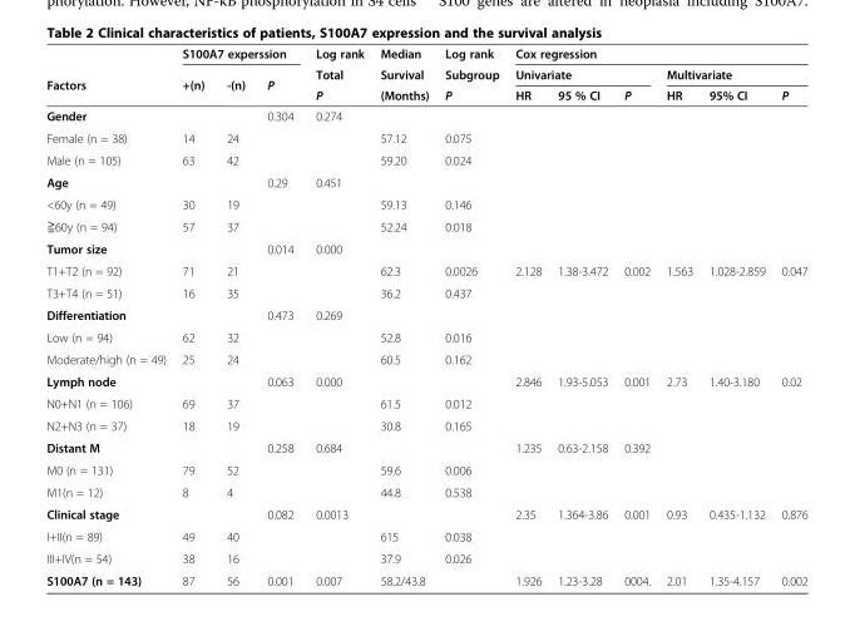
<table><thead><tr><td rowspan="3">Factors</td><td colspan="3">S100A7 experssion</td><td rowspan="3">Log rank Total P</td><td rowspan="3">Median Survival (Months)</td><td rowspan="3">Log rank Subgroup P</td><td rowspan="2" colspan="3">Cox regression Univariate</td><td></td><td></td><td></td></tr><tr><td rowspan="2">+(n)</td><td rowspan="2">-(n)</td><td rowspan="2">P</td><td colspan="3">Multivariate</td></tr><tr><td>HR</td><td>95 % CI</td><td>P</td><td>HR</td><td>95% CI</td><td>P</td></tr></thead><tbody><tr><td>Gender</td><td></td><td></td><td>0.304</td><td>0.274</td><td></td><td></td><td></td><td></td><td></td><td></td><td></td><td></td></tr><tr><td>Female (n = 38)</td><td>14</td><td>24</td><td></td><td></td><td>57.12</td><td>0.075</td><td></td><td></td><td></td><td></td><td></td><td></td></tr><tr><td>Male (n = 105)</td><td>63</td><td>42</td><td></td><td></td><td>59.20</td><td>0.024</td><td></td><td></td><td></td><td></td><td></td><td></td></tr><tr><td>Age</td><td></td><td></td><td>0.29</td><td>0.451</td><td></td><td></td><td></td><td></td><td></td><td></td><td></td><td></td></tr><tr><td>&lt;60y (n = 49)</td><td>30</td><td>19</td><td></td><td></td><td>59.13</td><td>0.146</td><td></td><td></td><td></td><td></td><td></td><td></td></tr><tr><td>≧60y (n = 94)</td><td>57</td><td>37</td><td></td><td></td><td>52.24</td><td>0.018</td><td></td><td></td><td></td><td></td><td></td><td></td></tr><tr><td>Tumor size</td><td></td><td></td><td>0.014</td><td>0.000</td><td></td><td></td><td></td><td></td><td></td><td></td><td></td><td></td></tr><tr><td>T1+T2 (n = 92)</td><td>71</td><td>21</td><td></td><td></td><td>62.3</td><td>0.0026</td><td>2.128</td><td>1.38-3.472</td><td>0.002</td><td>1.563</td><td>1.028-2.859</td><td>0.047</td></tr><tr><td>T3+T4 (n = 51)</td><td>16</td><td>35</td><td></td><td></td><td>36.2</td><td>0.437</td><td></td><td></td><td></td><td></td><td></td><td></td></tr><tr><td>Differentiation</td><td></td><td></td><td>0.473</td><td>0.269</td><td></td><td></td><td></td><td></td><td></td><td></td><td></td><td></td></tr><tr><td>Low (n = 94)</td><td>62</td><td>32</td><td></td><td></td><td>52.8</td><td>0.016</td><td></td><td></td><td></td><td></td><td></td><td></td></tr><tr><td>Moderate/high (n = 49)</td><td>25</td><td>24</td><td></td><td></td><td>60.5</td><td>0.162</td><td></td><td></td><td></td><td></td><td></td><td></td></tr><tr><td>Lymph node</td><td></td><td></td><td>0.063</td><td>0.000</td><td></td><td></td><td>2.846</td><td>1.93-5.053</td><td>0.001</td><td>2.73</td><td>1.40-3.180</td><td>0.02</td></tr><tr><td>N0+N1 (n = 106)</td><td>69</td><td>37</td><td></td><td></td><td>61.5</td><td>0.012</td><td></td><td></td><td></td><td></td><td></td><td></td></tr><tr><td>N2+N3 (n = 37)</td><td>18</td><td>19</td><td></td><td></td><td>30.8</td><td>0.165</td><td></td><td></td><td></td><td></td><td></td><td></td></tr><tr><td>Distant M</td><td></td><td></td><td>0.258</td><td>0.684</td><td></td><td></td><td>1.235</td><td>0.63-2.158</td><td>0.392</td><td></td><td></td><td></td></tr><tr><td>M0 (n = 131)</td><td>79</td><td>52</td><td></td><td></td><td>59.6</td><td>0.006</td><td></td><td></td><td></td><td></td><td></td><td></td></tr><tr><td>M1(n = 12)</td><td>8</td><td>4</td><td></td><td></td><td>44.8</td><td>0.538</td><td></td><td></td><td></td><td></td><td></td><td></td></tr><tr><td>Clinical stage</td><td></td><td></td><td>0.082</td><td>0.0013</td><td></td><td></td><td>2.35</td><td>1.364-3.86</td><td>0.001</td><td>0.93</td><td>0.435-1.132</td><td>0.876</td></tr><tr><td>I+II(n = 89)</td><td>49</td><td>40</td><td></td><td></td><td>615</td><td>0.038</td><td></td><td></td><td></td><td></td><td></td><td></td></tr><tr><td>III+IV(n = 54)</td><td>38</td><td>16</td><td></td><td></td><td>37.9</td><td>0.026</td><td></td><td></td><td></td><td></td><td></td><td></td></tr><tr><td>S100A7 (n = 143)</td><td>87</td><td>56</td><td>0.001</td><td>0.007</td><td>58.2/43.8</td><td></td><td>1.926</td><td>1.23-3.28</td><td>0004.</td><td>2.01</td><td>1.35-4.157</td><td>0.002</td></tr></tbody></table>